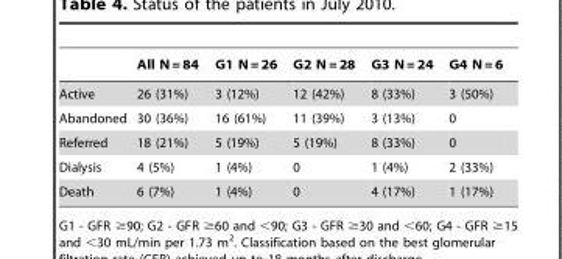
<table><thead><tr><td></td><td>All N = 84</td><td>G1 N = 26</td><td>G2 N = 28</td><td>G3 N = 24</td><td>G4 N = 6</td></tr></thead><tbody><tr><td>Active</td><td>26 (31%)</td><td>3 (12%)</td><td>12 (42%)</td><td>8 (33%)</td><td>3 (50%)</td></tr><tr><td>Abandoned</td><td>30 (36%)</td><td>16 (61%)</td><td>11 (39%)</td><td>3 (13%)</td><td>0</td></tr><tr><td>Referred</td><td>18 (21%)</td><td>5 (19%)</td><td>5 (19%)</td><td>8 (33%)</td><td>0</td></tr><tr><td>Dialysis</td><td>4 (5%)</td><td>1 (4%)</td><td>0</td><td>1 (4%)</td><td>2 (33%)</td></tr><tr><td>Death</td><td>6 (7%)</td><td>1 (4%)</td><td>0</td><td>4 (17%)</td><td>1 (17%)</td></tr></tbody></table>